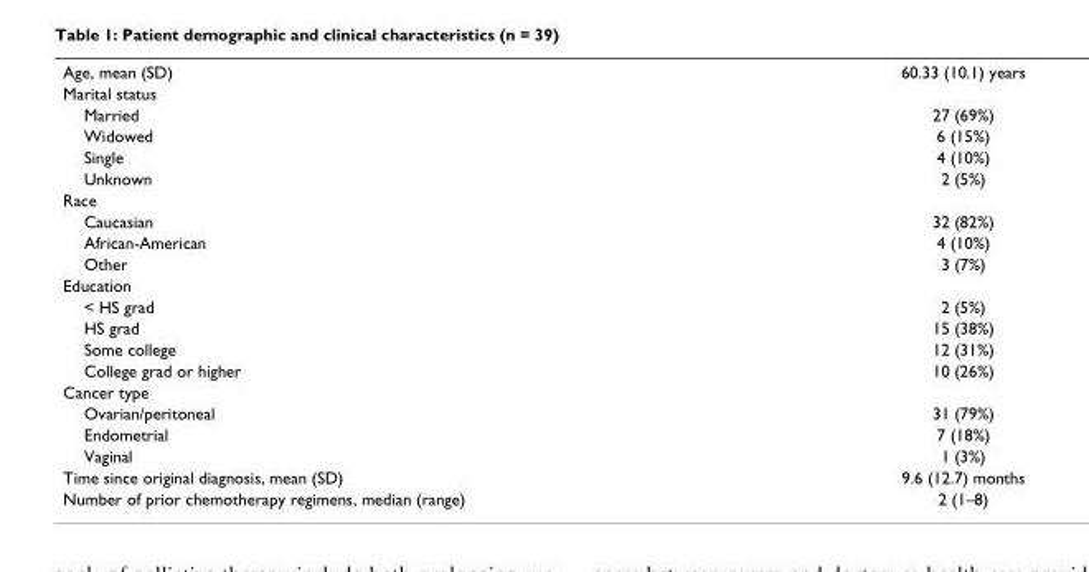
<table><tbody><tr><td>Age, mean (SD)</td><td>60.33 (10.1) years</td></tr><tr><td colspan="2">Marital status</td></tr><tr><td>Married</td><td>27 (69%)</td></tr><tr><td>Widowed</td><td>6 (15%)</td></tr><tr><td>Single</td><td>4 (10%)</td></tr><tr><td>Unknown</td><td>2 (5%)</td></tr><tr><td colspan="2">Race</td></tr><tr><td>Caucasian</td><td>32 (82%)</td></tr><tr><td>African-American</td><td>4 (10%)</td></tr><tr><td>Other</td><td>3 (7%)</td></tr><tr><td colspan="2">Education</td></tr><tr><td>&lt; HS grad</td><td>2 (5%)</td></tr><tr><td>HS grad</td><td>15 (38%)</td></tr><tr><td>Some college</td><td>12 (31%)</td></tr><tr><td>College grad or higher</td><td>10 (26%)</td></tr><tr><td colspan="2">Cancer type</td></tr><tr><td>Ovarian/peritoneal</td><td>31 (79%)</td></tr><tr><td>Endometrial</td><td>7 (18%)</td></tr><tr><td>Vaginal</td><td>1 (3%)</td></tr><tr><td>Time since original diagnosis, mean (SD)</td><td>9.6 (12.7) months</td></tr><tr><td>Number of prior chemotherapy regimens, median (range)</td><td>2 (1–8)</td></tr></tbody></table>